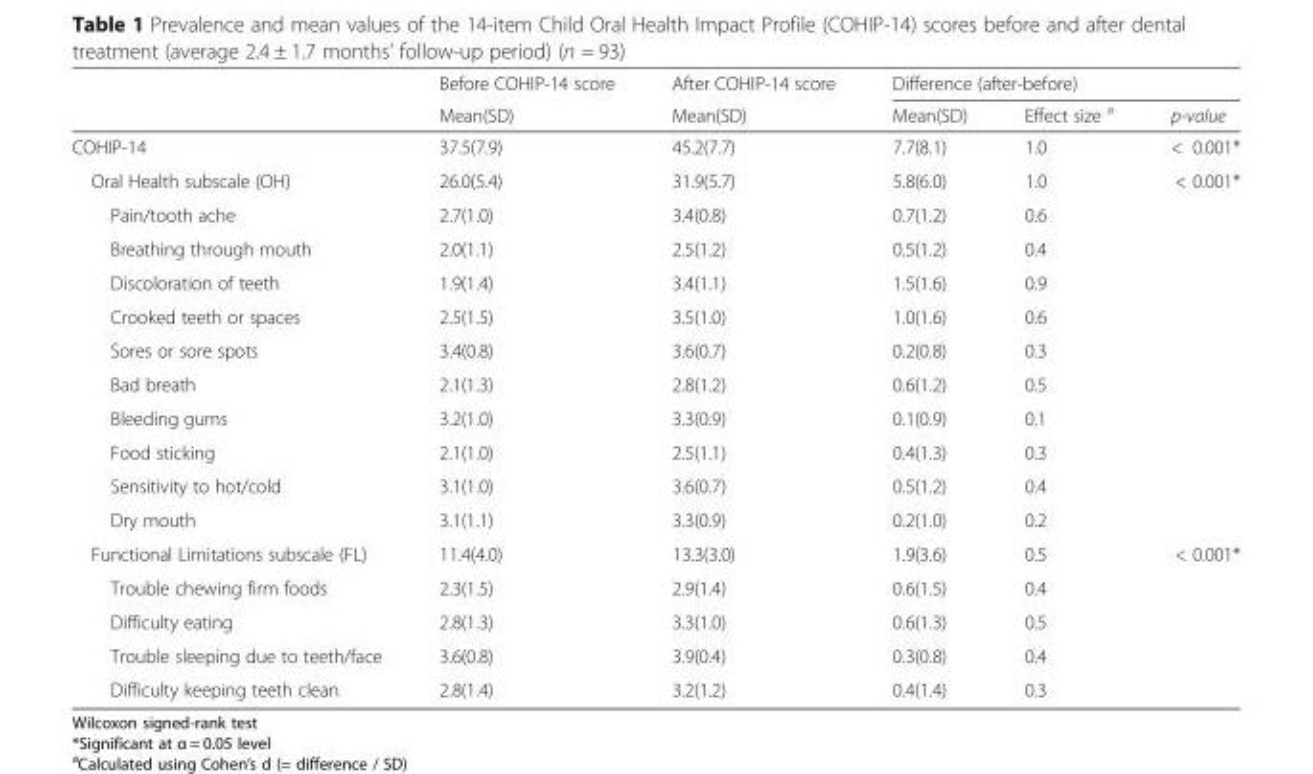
<table><thead><tr><td rowspan="2"></td><td rowspan="2">Before COHIP-14 score Mean(SD)</td><td rowspan="2">After COHIP-14 score Mean(SD)</td><td colspan="3">Difference (after-before)</td></tr><tr><td>Mean(SD)</td><td>Effect size <sup>a</sup></td><td>p-value</td></tr></thead><tbody><tr><td>COHIP-14</td><td>37.5(7.9)</td><td>45.2(7.7)</td><td>7.7(8.1)</td><td>1.0</td><td>&lt; 0.001*</td></tr><tr><td>Oral Health subscale (OH)</td><td>26.0(5.4)</td><td>31.9(5.7)</td><td>5.8(6.0)</td><td>1.0</td><td>&lt; 0.001*</td></tr><tr><td>Pain/tooth ache</td><td>2.7(1.0)</td><td>3.4(0.8)</td><td>0.7(1.2)</td><td>0.6</td><td></td></tr><tr><td>Breathing through mouth</td><td>2.0(1.1)</td><td>2.5(1.2)</td><td>0.5(1.2)</td><td>0.4</td><td></td></tr><tr><td>Discoloration of teeth</td><td>1.9(1.4)</td><td>3.4(1.1)</td><td>1.5(1.6)</td><td>0.9</td><td></td></tr><tr><td>Crooked teeth or spaces</td><td>2.5(1.5)</td><td>3.5(1.0)</td><td>1.0(1.6)</td><td>0.6</td><td></td></tr><tr><td>Sores or sore spots</td><td>3.4(0.8)</td><td>3.6(0.7)</td><td>0.2(0.8)</td><td>0.3</td><td></td></tr><tr><td>Bad breath</td><td>2.1(1.3)</td><td>2.8(1.2)</td><td>0.6(1.2)</td><td>0.5</td><td></td></tr><tr><td>Bleeding gums</td><td>3.2(1.0)</td><td>3.3(0.9)</td><td>0.1(0.9)</td><td>0.1</td><td></td></tr><tr><td>Food sticking</td><td>2.1(1.0)</td><td>2.5(1.1)</td><td>0.4(1.3)</td><td>0.3</td><td></td></tr><tr><td>Sensitivity to hot/cold</td><td>3.1(1.0)</td><td>3.6(0.7)</td><td>0.5(1.2)</td><td>0.4</td><td></td></tr><tr><td>Dry mouth</td><td>3.1(1.1)</td><td>3.3(0.9)</td><td>0.2(1.0)</td><td>0.2</td><td></td></tr><tr><td>Functional Limitations subscale (FL)</td><td>11.4(4.0)</td><td>13.3(3.0)</td><td>1.9(3.6)</td><td>0.5</td><td>&lt; 0.001*</td></tr><tr><td>Trouble chewing firm foods</td><td>2.3(1.5)</td><td>2.9(1.4)</td><td>0.6(1.5)</td><td>0.4</td><td></td></tr><tr><td>Difficulty eating</td><td>2.8(1.3)</td><td>3.3(1.0)</td><td>0.6(1.3)</td><td>0.5</td><td></td></tr><tr><td>Trouble sleeping due to teeth/face</td><td>3.6(0.8)</td><td>3.9(0.4)</td><td>0.3(0.8)</td><td>0.4</td><td></td></tr><tr><td>Difficulty keeping teeth clean</td><td>2.8(1.4)</td><td>3.2(1.2)</td><td>0.4(1.4)</td><td>0.3</td><td></td></tr></tbody></table>